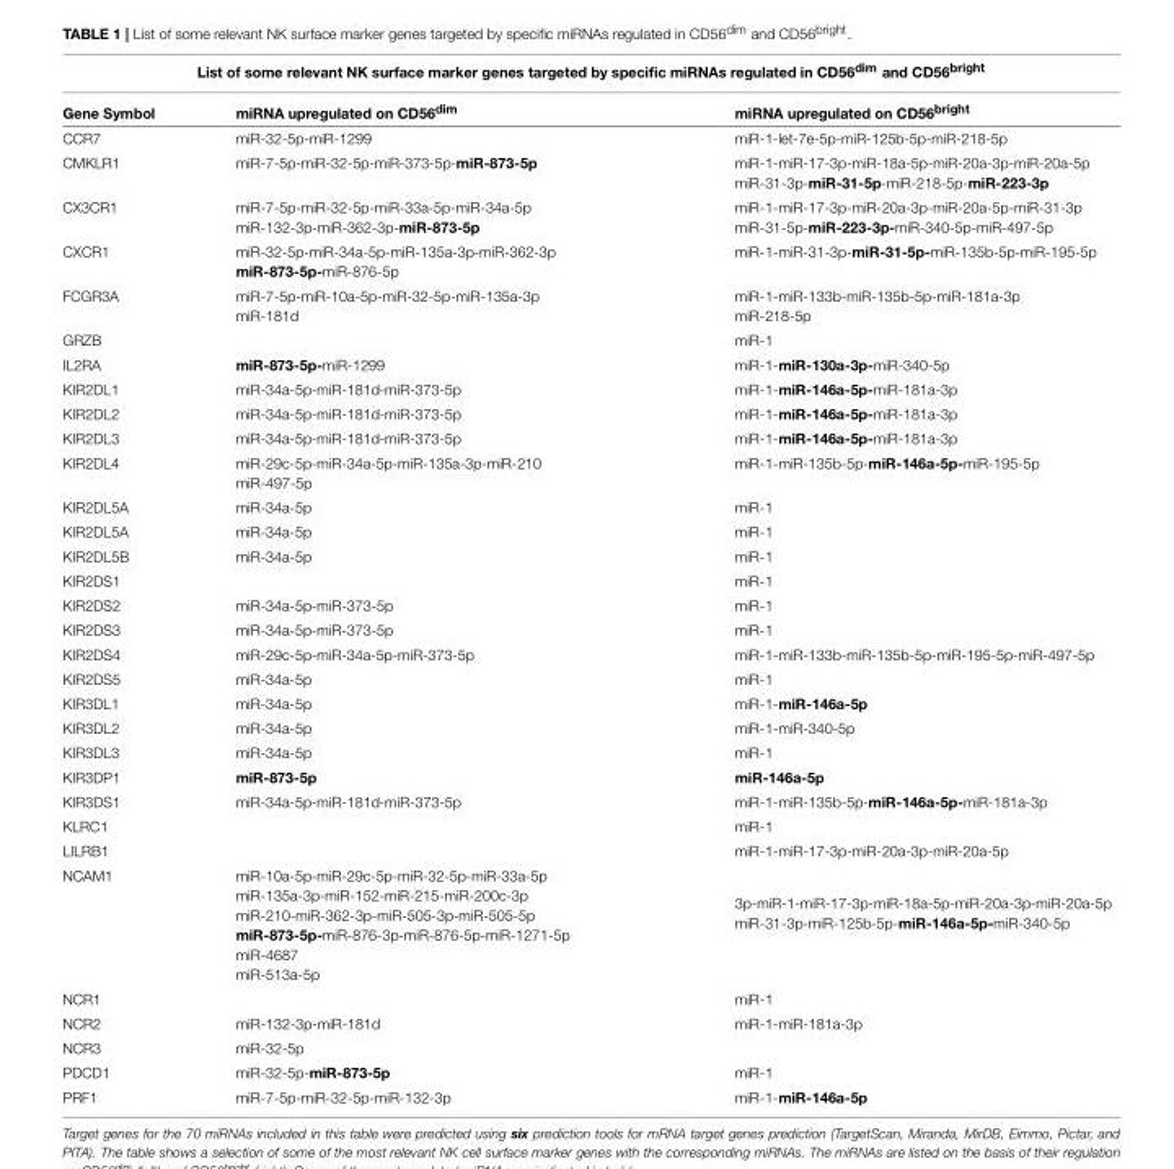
<table><thead><tr><td colspan="3">List of some relevant NK surface marker genes targeted by specific miRNAs regulated in CD56<sup>dim</sup> and CD56<sup>bright</sup></td></tr><tr><td>Gene Symbol</td><td>miRNA upregulated on CD56<sup>dim</sup></td><td>miRNA upregulated on CD56<sup>bright</sup></td></tr></thead><tbody><tr><td>CCR7</td><td>miR-32-5p-miR-1299</td><td>miR-1-let-7e-5p-miR-125b-5p-miR-218-5p</td></tr><tr><td>CMKLR1</td><td>miR-7-5p-miR-32-5p-miR-373-5p-miR-873-5p</td><td>miR-1-miR-17-3p-miR-18a-5p-miR-20a-3p-miR-20a-5p miR-31-3p-miR-31-5p-miR-218-5p-miR-223-3p</td></tr><tr><td>CX3CR1</td><td>miR-7-5p-miR-32-5p-miR-33a-5p-miR-34a-5p miR-132-3p-miR-362-3p-miR-873-5p</td><td>miR-1-miR-17-3p-miR-20a-3p-miR-20a-5p-miR-31-3p miR-31-5p-miR-223-3p-miR-340-5p-miR-497-5p</td></tr><tr><td>CXCR1</td><td>miR-32-5p-miR-34a-5p-miR-135a-3p-miR-362-3p miR-873-5p-miR-876-5p</td><td>miR-1-miR-31-3p-miR-31-5p-miR-135b-5p-miR-195-5p</td></tr><tr><td>FCGR3A</td><td>miR-7-5p-miR-10a-5p-miR-32-5p-miR-135a-3p miR-181d</td><td>miR-1-miR-133b-miR-135b-5p-miR-181a-3p miR-218-5p</td></tr><tr><td>GRZB</td><td></td><td>miR-1</td></tr><tr><td>IL2RA</td><td>miR-873-5p-miR-1299</td><td>miR-1-miR-130a-3p-miR-340-5p</td></tr><tr><td>KIR2DL1</td><td>miR-34a-5p-miR-181d-miR-373-5p</td><td>miR-1-miR-146a-5p-miR-181a-3p</td></tr><tr><td>KIR2DL2</td><td>miR-34a-5p-miR-181d-miR-373-5p</td><td>miR-1-miR-146a-5p-miR-181a-3p</td></tr><tr><td>KIR2DL3</td><td>miR-34a-5p-miR-181d-miR-373-5p</td><td>miR-1-miR-146a-5p-miR-181a-3p</td></tr><tr><td>KIR2DL4</td><td>miR-29c-5p-miR-34a-5p-miR-135a-3p-miR-210 miR-497-5p</td><td>miR-1-miR-135b-5p-miR-146a-5p-miR-195-5p</td></tr><tr><td>KIR2DL5A</td><td>miR-34a-5p</td><td>miR-1</td></tr><tr><td>KIR2DL5A</td><td>miR-34a-5p</td><td>miR-1</td></tr><tr><td>KIR2DL5B</td><td>miR-34a-5p</td><td>miR-1</td></tr><tr><td>KIR2DS1</td><td></td><td>miR-1</td></tr><tr><td>KIR2DS2</td><td>miR-34a-5p-miR-373-5p</td><td>miR-1</td></tr><tr><td>KIR2DS3</td><td>miR-34a-5p-miR-373-5p</td><td>miR-1</td></tr><tr><td>KIR2DS4</td><td>miR-29c-5p-miR-34a-5p-miR-373-5p</td><td>miR-1-miR-133b-miR-135b-5p-miR-195-5p-miR-497-5p</td></tr><tr><td>KIR2DS5</td><td>miR-34a-5p</td><td>miR-1</td></tr><tr><td>KIR3DL1</td><td>miR-34a-5p</td><td>miR-1-miR-146a-5p</td></tr><tr><td>KIR3DL2</td><td>miR-34a-5p</td><td>miR-1-miR-340-5p</td></tr><tr><td>KIR3DL3</td><td>miR-34a-5p</td><td>miR-1</td></tr><tr><td>KIR3DP1</td><td>miR-873-5p</td><td>miR-146a-5p</td></tr><tr><td>KIR3DS1</td><td>miR-34a-5p-miR-181d-miR-373-5p</td><td>miR-1-miR-135b-5p-miR-146a-5p-miR-181a-3p</td></tr><tr><td>KLRC1</td><td></td><td>miR-1</td></tr><tr><td>LILRB1</td><td></td><td>miR-1-miR-17-3p-miR-20a-3p-miR-20a-5p</td></tr><tr><td>NCAM1</td><td>miR-10a-5p-miR-29c-5p-miR-32-5p-miR-33a-5p miR-135a-3p-miR-152-miR-215-miR-200c-3p miR-210-miR-362-3p-miR-505-3p-miR-505-5p miR-873-5p-miR-876-3p-miR-876-5p-miR-1271-5p miR-4687 miR-513a-5p</td><td>3p-miR-1-miR-17-3p-miR-18a-5p-miR-20a-3p-miR-20a-5p miR-31-3p-miR-125b-5p-miR-146a-5p-miR-340-5p</td></tr><tr><td>NCR1</td><td></td><td>miR-1</td></tr><tr><td>NCR2</td><td>miR-132-3p-miR-181d</td><td>miR-1-miR-181a-3p</td></tr><tr><td>NCR3</td><td>miR-32-5p</td><td></td></tr><tr><td>PDCD1</td><td>miR-32-5p-miR-873-5p</td><td>miR-1</td></tr><tr><td>PRF1</td><td>miR-7-5p-miR-32-5p-miR-132-3p</td><td>miR-1-miR-146a-5p</td></tr></tbody></table>